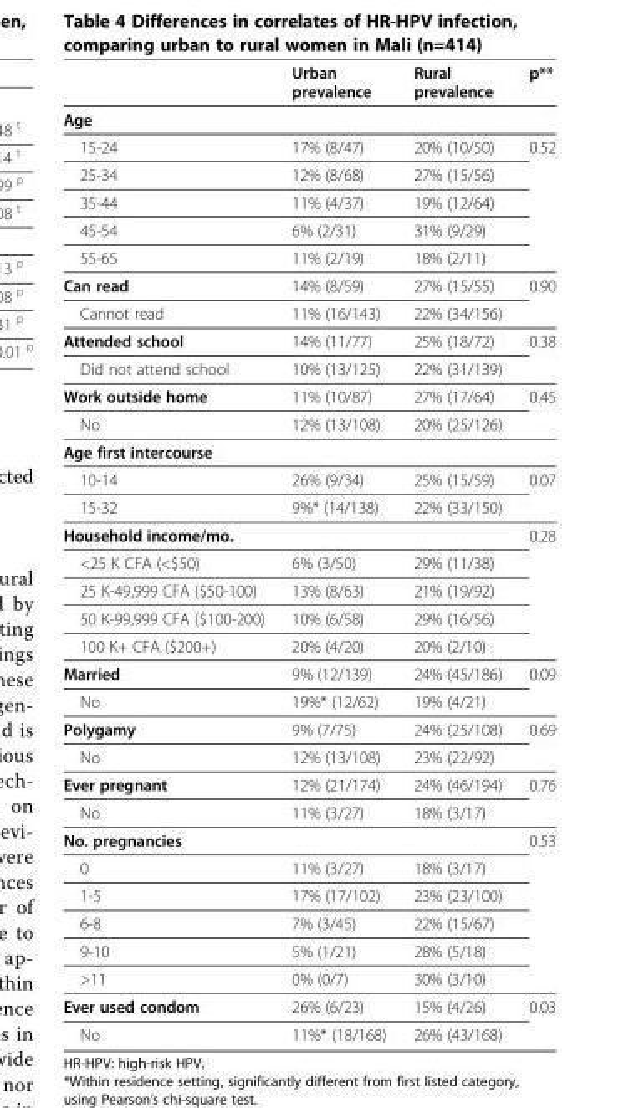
<table><thead><tr><td></td><td>Urban prevalence</td><td>Rural prevalence</td><td>p**</td></tr></thead><tbody><tr><td colspan="4">Age</td></tr><tr><td>15-24</td><td>17% (8/47)</td><td>20% (10/50)</td><td rowspan="5">0.52</td></tr><tr><td>25-34</td><td>12% (8/68)</td><td>27% (15/56)</td></tr><tr><td>35-44</td><td>11% (4/37)</td><td>19% (12/64)</td></tr><tr><td>45-54</td><td>6% (2/31)</td><td>31% (9/29)</td></tr><tr><td>55-65</td><td>11% (2/19)</td><td>18% (2/11)</td></tr><tr><td>Can read</td><td>14% (8/59)</td><td>27% (15/55)</td><td>0.90</td></tr><tr><td>Cannot read</td><td>11% (16/143)</td><td>22% (34/156)</td><td></td></tr><tr><td>Attended school</td><td>14% (11/77)</td><td>25% (18/72)</td><td>0.38</td></tr><tr><td>Did not attend school</td><td>10% (13/125)</td><td>22% (31/139)</td><td></td></tr><tr><td>Work outside home</td><td>11% (10/87)</td><td>27% (17/64)</td><td>0.45</td></tr><tr><td>No</td><td>12% (13/108)</td><td>20% (25/126)</td><td></td></tr><tr><td colspan="4">Age first intercourse</td></tr><tr><td>10-14</td><td>26% (9/34)</td><td>25% (15/59)</td><td>0.07</td></tr><tr><td>15-32</td><td>9%* (14/138)</td><td>22% (33/150)</td><td></td></tr><tr><td>Household income/mo.</td><td></td><td></td><td>0.28</td></tr><tr><td>&lt;25 K CFA (&lt;$50)</td><td>6% (3/50)</td><td>29% (11/38)</td><td></td></tr><tr><td>25 K-49,999 CFA ($50-100)</td><td>13% (8/63)</td><td>21% (19/92)</td><td></td></tr><tr><td>50 K-99,999 CFA ($100-200)</td><td>10% (6/58)</td><td>29% (16/56)</td><td></td></tr><tr><td>100 K+ CFA ($200+)</td><td>20% (4/20)</td><td>20% (2/10)</td><td></td></tr><tr><td>Married</td><td>9% (12/139)</td><td>24% (45/186)</td><td>0.09</td></tr><tr><td>No</td><td>19%* (12/62)</td><td>19% (4/21)</td><td></td></tr><tr><td>Polygamy</td><td>9% (7/75)</td><td>24% (25/108)</td><td>0.69</td></tr><tr><td>No</td><td>12% (13/108)</td><td>23% (22/92)</td><td></td></tr><tr><td>Ever pregnant</td><td>12% (21/174)</td><td>24% (46/194)</td><td>0.76</td></tr><tr><td>No</td><td>11% (3/27)</td><td>18% (3/17)</td><td></td></tr><tr><td>No. pregnancies</td><td></td><td></td><td>0.53</td></tr><tr><td>0</td><td>11% (3/27)</td><td>18% (3/17)</td><td></td></tr><tr><td>1-5</td><td>17% (17/102)</td><td>23% (23/100)</td><td></td></tr><tr><td>6-8</td><td>7% (3/45)</td><td>22% (15/67)</td><td></td></tr><tr><td>9-10</td><td>5% (1/21)</td><td>28% (5/18)</td><td></td></tr><tr><td>&gt;11</td><td>0% (0/7)</td><td>30% (3/10)</td><td></td></tr><tr><td>Ever used condom</td><td>26% (6/23)</td><td>15% (4/26)</td><td>0.03</td></tr><tr><td>No</td><td>11%* (18/168)</td><td>26% (43/168)</td><td></td></tr></tbody></table>